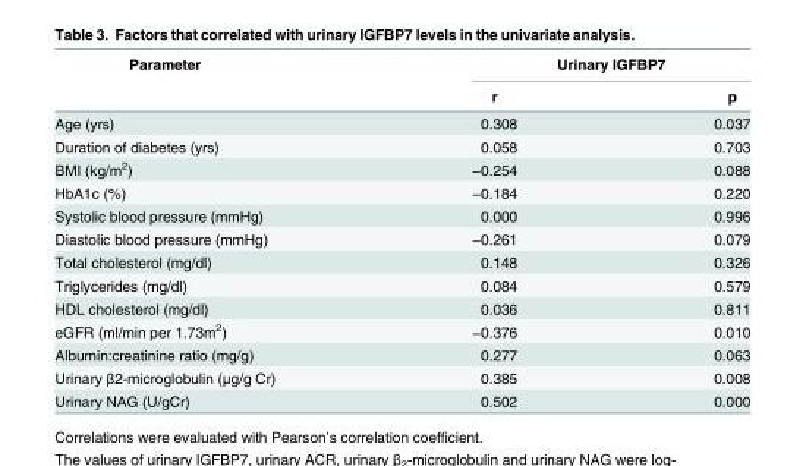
<table><thead><tr><td rowspan="2">Parameter</td><td colspan="2">Urinary IGFBP7</td></tr><tr><td>r</td><td>p</td></tr></thead><tbody><tr><td>Age (yrs)</td><td>0.308</td><td>0.037</td></tr><tr><td>Duration of diabetes (yrs)</td><td>0.058</td><td>0.703</td></tr><tr><td>BMI (kg/m<sup>2</sup>)</td><td>−0.254</td><td>0.088</td></tr><tr><td>HbA1c (%)</td><td>−0.184</td><td>0.220</td></tr><tr><td>Systolic blood pressure (mmHg)</td><td>0.000</td><td>0.996</td></tr><tr><td>Diastolic blood pressure (mmHg)</td><td>−0.261</td><td>0.079</td></tr><tr><td>Total cholesterol (mg/dl)</td><td>0.148</td><td>0.326</td></tr><tr><td>Triglycerides (mg/dl)</td><td>0.084</td><td>0.579</td></tr><tr><td>HDL cholesterol (mg/dl)</td><td>0.036</td><td>0.811</td></tr><tr><td>eGFR (ml/min per 1.73m<sup>2</sup>)</td><td>−0.376</td><td>0.010</td></tr><tr><td>Albumin:creatinine ratio (mg/g)</td><td>0.277</td><td>0.063</td></tr><tr><td>Urinary β2-microglobulin (μg/g Cr)</td><td>0.385</td><td>0.008</td></tr><tr><td>Urinary NAG (U/gCr)</td><td>0.502</td><td>0.000</td></tr></tbody></table>